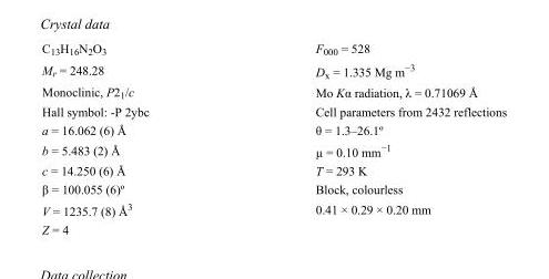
<table><tbody><tr><td>C<sub>13</sub>H<sub>16</sub>N<sub>2</sub>O<sub>3</sub></td><td>F000 = 528</td></tr><tr><td>M<sub>r</sub> = 248.28</td><td>D<sub>x</sub> = 1.335 Mg m<sup>−3</sup></td></tr><tr><td>Monoclinic, P2<sub>1</sub>/c</td><td>Mo Kα radiation, λ = 0.71069 Å</td></tr><tr><td>Hall symbol: -P 2ybc</td><td>Cell parameters from 2432 reflections</td></tr><tr><td>a = 16.062 (6) Å</td><td>θ = 1.3–26.1º</td></tr><tr><td>b = 5.483 (2) Å</td><td>µ = 0.10 mm<sup>−1</sup></td></tr><tr><td>c = 14.250 (6) Å</td><td>T = 293 K</td></tr><tr><td>β = 100.055 (6)º</td><td>Block, colourless</td></tr><tr><td>V = 1235.7 (8) Å<sup>3</sup></td><td>0.41 × 0.29 × 0.20 mm</td></tr><tr><td>Z = 4</td><td></td></tr></tbody></table>